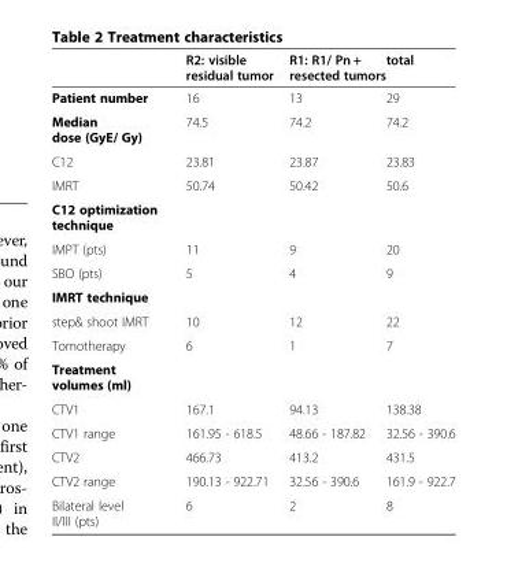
<table><thead><tr><td></td><td>R2: visible residual tumor</td><td>R1: R1/ Pn + resected tumors</td><td>total</td></tr></thead><tbody><tr><td>Patient number</td><td>16</td><td>13</td><td>29</td></tr><tr><td>Median dose (GyE/ Gy)</td><td>74.5</td><td>74.2</td><td>74.2</td></tr><tr><td>C12</td><td>23.81</td><td>23.87</td><td>23.83</td></tr><tr><td>IMRT</td><td>50.74</td><td>50.42</td><td>50.6</td></tr><tr><td colspan="4">C12 optimization technique</td></tr><tr><td>IMPT (pts)</td><td>11</td><td>9</td><td>20</td></tr><tr><td>SBO (pts)</td><td>5</td><td>4</td><td>9</td></tr><tr><td colspan="4">IMRT technique</td></tr><tr><td>step&amp; shoot IMRT</td><td>10</td><td>12</td><td>22</td></tr><tr><td>Tomotherapy</td><td>6</td><td>1</td><td>7</td></tr><tr><td colspan="4">Treatment volumes (ml)</td></tr><tr><td>CTV1</td><td>167.1</td><td>94.13</td><td>138.38</td></tr><tr><td>CTV1 range</td><td>161.95 - 618.5</td><td>48.66 - 187.82</td><td>32.56 - 390.6</td></tr><tr><td>CTV2</td><td>466.73</td><td>413.2</td><td>431.5</td></tr><tr><td>CTV2 range</td><td>190.13 - 922.71</td><td>32.56 - 390.6</td><td>161.9 - 922.7</td></tr><tr><td>Bilateral level II/III (pts)</td><td>6</td><td>2</td><td>8</td></tr></tbody></table>